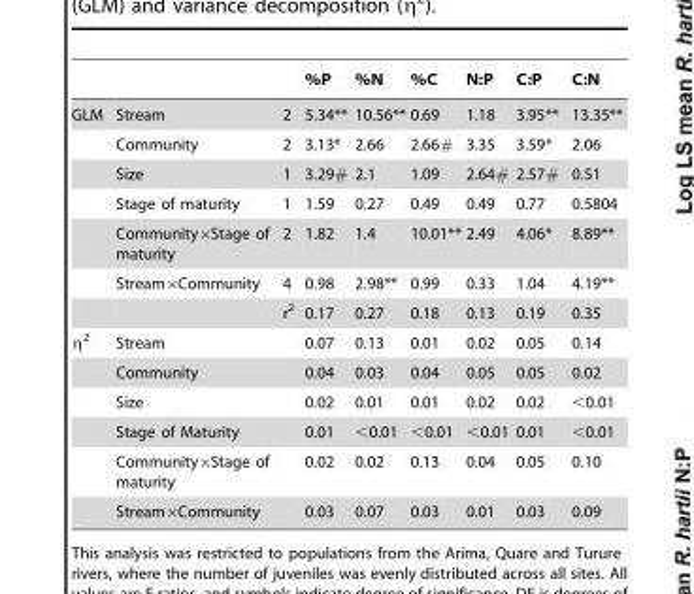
<table><thead><tr><td></td><td></td><td></td><td>%P</td><td>%N</td><td>%C</td><td>N:P</td><td>C:P</td><td>C:N</td></tr></thead><tbody><tr><td rowspan="7">GLM</td><td>Stream</td><td>2</td><td>5.34**</td><td>10.56**</td><td>0.69</td><td>1.18</td><td>3.95**</td><td>13.35**</td></tr><tr><td>Community</td><td>2</td><td>3.13*</td><td>2.66</td><td>2.66#</td><td>3.35</td><td>3.59*</td><td>2.06</td></tr><tr><td>Size</td><td>1</td><td>3.29#</td><td>2.1</td><td>1.09</td><td>2.64#</td><td>2.57#</td><td>0.51</td></tr><tr><td>Stage of maturity</td><td>1</td><td>1.59</td><td>0.27</td><td>0.49</td><td>0.49</td><td>0.77</td><td>0.5804</td></tr><tr><td>Community×Stage of maturity</td><td>2</td><td>1.82</td><td>1.4</td><td>10.01**</td><td>2.49</td><td>4.06*</td><td>8.89**</td></tr><tr><td>Stream×Community</td><td>4</td><td>0.98</td><td>2.98**</td><td>0.99</td><td>0.33</td><td>1.04</td><td>4.19**</td></tr><tr><td></td><td>r<sup>2</sup></td><td>0.17</td><td>0.27</td><td>0.18</td><td>0.13</td><td>0.19</td><td>0.35</td></tr><tr><td rowspan="6">η<sup>2</sup></td><td>Stream</td><td></td><td>0.07</td><td>0.13</td><td>0.01</td><td>0.02</td><td>0.05</td><td>0.14</td></tr><tr><td>Community</td><td></td><td>0.04</td><td>0.03</td><td>0.04</td><td>0.05</td><td>0.05</td><td>0.02</td></tr><tr><td>Size</td><td></td><td>0.02</td><td>0.01</td><td>0.01</td><td>0.02</td><td>0.02</td><td>&lt;0.01</td></tr><tr><td>Stage of Maturity</td><td></td><td>0.01</td><td>&lt;0.01</td><td>&lt;0.01</td><td>&lt;0.01</td><td>0.01</td><td>&lt;0.01</td></tr><tr><td>Community×Stage of maturity</td><td></td><td>0.02</td><td>0.02</td><td>0.13</td><td>0.04</td><td>0.05</td><td>0.10</td></tr><tr><td>Stream×Community</td><td></td><td>0.03</td><td>0.07</td><td>0.03</td><td>0.01</td><td>0.03</td><td>0.09</td></tr></tbody></table>